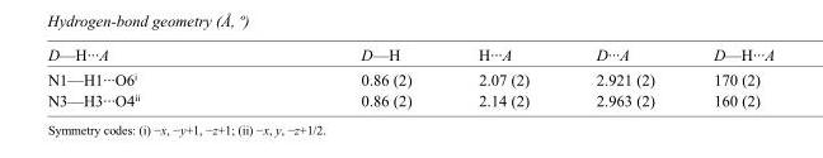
<table><tbody><tr><td>D—H···A</td><td>D—H</td><td>H···A</td><td>D···A</td><td>D—H···A</td></tr><tr><td>N1—H1···O6<sup>i</sup></td><td>0.86 (2)</td><td>2.07 (2)</td><td>2.921 (2)</td><td>170 (2)</td></tr><tr><td>N3—H3···O4<sup>ii</sup></td><td>0.86 (2)</td><td>2.14 (2)</td><td>2.963 (2)</td><td>160 (2)</td></tr></tbody></table>